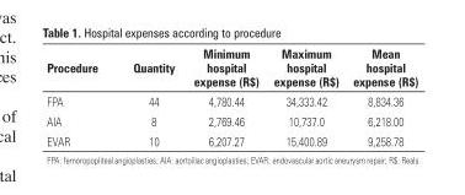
<table><thead><tr><td>Procedure</td><td>Quantity</td><td>minimum hospital expense (R$)</td><td>maximum hospital expense (R$)</td><td>mean hospital expense (R$)</td></tr></thead><tbody><tr><td>FPA</td><td>44</td><td>4,780.44</td><td>34,333.42</td><td>8,834.36</td></tr><tr><td>AIA</td><td>8</td><td>2,769.46</td><td>10,737.0</td><td>6,218.00</td></tr><tr><td>EVAR</td><td>10</td><td>6,207.27</td><td>15,400.89</td><td>9,258.78</td></tr></tbody></table>